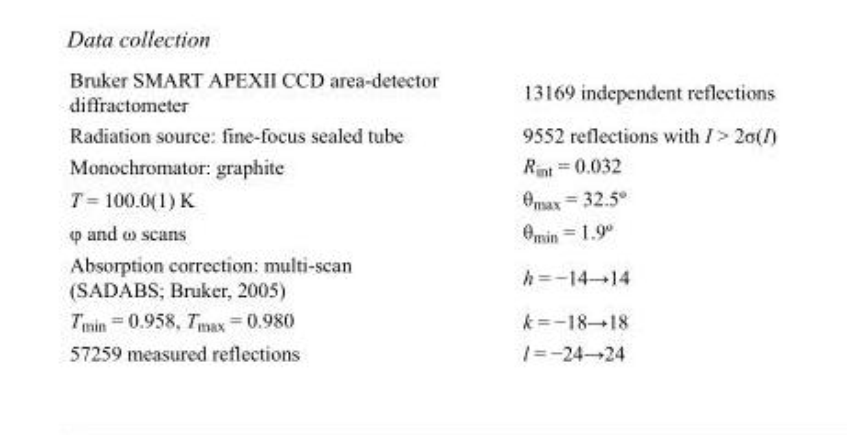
<table><tbody><tr><td>Bruker SMART APEXII CCD area-detector diffractometer</td><td>13169 independent reflections</td></tr><tr><td>Radiation source: fine-focus sealed tube</td><td>9552 reflections with I &gt; 2σ(I)</td></tr><tr><td>Monochromator: graphite</td><td>R<sub>int</sub> = 0.032</td></tr><tr><td>T = 100.0(1) K</td><td>θ<sub>max</sub> = 32.5º</td></tr><tr><td>φ and ω scans</td><td>θ<sub>min</sub> = 1.9º</td></tr><tr><td>Absorption correction: multi-scan (SADABS; Bruker, 2005)</td><td>h = −14→14</td></tr><tr><td>T<sub>min</sub> = 0.958, T<sub>max</sub> = 0.980</td><td>k = −18→18</td></tr><tr><td>57259 measured reflections</td><td>l = −24→24</td></tr></tbody></table>